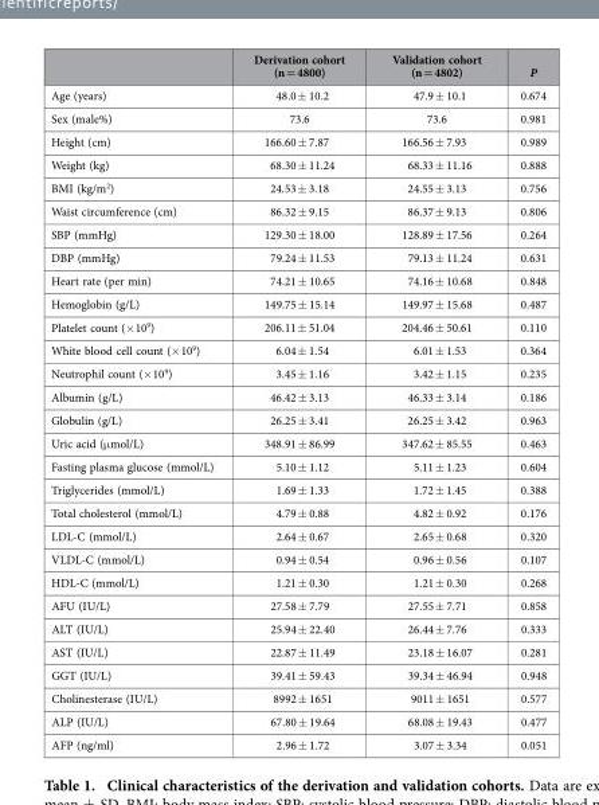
<table><thead><tr><td></td><td>Derivation cohort (n = 4800)</td><td>Validation cohort (n = 4802)</td><td>P</td></tr></thead><tbody><tr><td>Age (years)</td><td>48.0 ± 10.2</td><td>47.9 ± 10.1</td><td>0.674</td></tr><tr><td>Sex (male%)</td><td>73.6</td><td>73.6</td><td>0.981</td></tr><tr><td>Height (cm)</td><td>166.60 ± 7.87</td><td>166.56 ± 7.93</td><td>0.989</td></tr><tr><td>Weight (kg)</td><td>68.30 ± 11.24</td><td>68.33 ± 11.16</td><td>0.888</td></tr><tr><td>BMI (kg/m<sup>2</sup>)</td><td>24.53 ± 3.18</td><td>24.55 ± 3.13</td><td>0.756</td></tr><tr><td>Waist circumference (cm)</td><td>86.32 ± 9.15</td><td>86.37 ± 9.13</td><td>0.806</td></tr><tr><td>SBP (mmHg)</td><td>129.30 ± 18.00</td><td>128.89 ± 17.56</td><td>0.264</td></tr><tr><td>DBP (mmHg)</td><td>79.24 ± 11.53</td><td>79.13 ± 11.24</td><td>0.631</td></tr><tr><td>Heart rate (per min)</td><td>74.21 ± 10.65</td><td>74.16 ± 10.68</td><td>0.848</td></tr><tr><td>Hemoglobin (g/L)</td><td>149.75 ± 15.14</td><td>149.97 ± 15.68</td><td>0.487</td></tr><tr><td>Platelet count (× 10<sup>9</sup>)</td><td>206.11 ± 51.04</td><td>204.46 ± 50.61</td><td>0.110</td></tr><tr><td>White blood cell count (× 10<sup>9</sup>)</td><td>6.04 ± 1.54</td><td>6.01 ± 1.53</td><td>0.364</td></tr><tr><td>Neutrophil count (× 10<sup>9</sup>)</td><td>3.45 ± 1.16</td><td>3.42 ± 1.15</td><td>0.235</td></tr><tr><td>Albumin (g/L)</td><td>46.42 ± 3.13</td><td>46.33 ± 3.14</td><td>0.186</td></tr><tr><td>Globulin (g/L)</td><td>26.25 ± 3.41</td><td>26.25 ± 3.42</td><td>0.963</td></tr><tr><td>Uric acid (μ mol/L)</td><td>348.91 ± 86.99</td><td>347.62 ± 85.55</td><td>0.463</td></tr><tr><td>Fasting plasma glucose (mmol/L)</td><td>5.10 ± 1.12</td><td>5.11 ± 1.23</td><td>0.604</td></tr><tr><td>Triglycerides (mmol/L)</td><td>1.69 ± 1.33</td><td>1.72 ± 1.45</td><td>0.388</td></tr><tr><td>Total cholesterol (mmol/L)</td><td>4.79 ± 0.88</td><td>4.82 ± 0.92</td><td>0.176</td></tr><tr><td>LDL-C (mmol/L)</td><td>2.64 ± 0.67</td><td>2.65 ± 0.68</td><td>0.320</td></tr><tr><td>VLDL-C (mmol/L)</td><td>0.94 ± 0.54</td><td>0.96 ± 0.56</td><td>0.107</td></tr><tr><td>HDL-C (mmol/L)</td><td>1.21 ± 0.30</td><td>1.21 ± 0.30</td><td>0.268</td></tr><tr><td>AFU (IU/L)</td><td>27.58 ± 7.79</td><td>27.55 ± 7.71</td><td>0.858</td></tr><tr><td>ALT (IU/L)</td><td>25.94 ± 22.40</td><td>26.44 ± 7.76</td><td>0.333</td></tr><tr><td>AST (IU/L)</td><td>22.87 ± 11.49</td><td>23.18 ± 16.07</td><td>0.281</td></tr><tr><td>GGT (IU/L)</td><td>39.41 ± 59.43</td><td>39.34 ± 46.94</td><td>0.948</td></tr><tr><td>Cholinesterase (IU/L)</td><td>8992 ± 1651</td><td>9011 ± 1651</td><td>0.577</td></tr><tr><td>ALP (IU/L)</td><td>67.80 ± 19.64</td><td>68.08 ± 19.43</td><td>0.477</td></tr><tr><td>AFP (ng/ml)</td><td>2.96 ± 1.72</td><td>3.07 ± 3.34</td><td>0.051</td></tr></tbody></table>